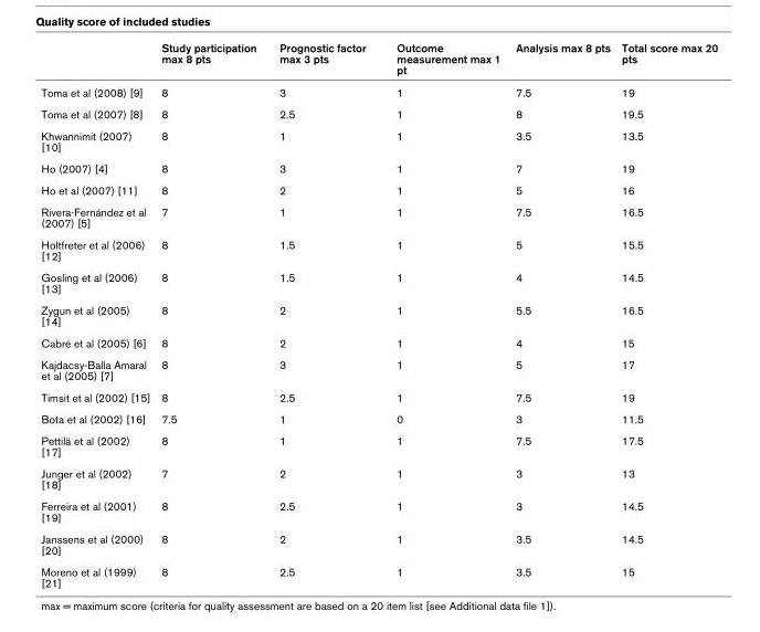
<table><thead><tr><td></td><td>Study participation max 8 pts</td><td>Prognostic factor max 3 pts</td><td>Outcome measurement max 1 pt</td><td>Analysis max 8 pts</td><td>Total score max 20 pts</td></tr></thead><tbody><tr><td>Toma et al (2008) [9]</td><td>8</td><td>3</td><td>1</td><td>7.5</td><td>19</td></tr><tr><td>Toma et al (2007) [8]</td><td>8</td><td>2.5</td><td>1</td><td>8</td><td>19.5</td></tr><tr><td>Khwannimit (2007) [10]</td><td>8</td><td>1</td><td>1</td><td>3.5</td><td>13.5</td></tr><tr><td>Ho (2007) [4]</td><td>8</td><td>3</td><td>1</td><td>7</td><td>19</td></tr><tr><td>Ho et al (2007) [11]</td><td>8</td><td>2</td><td>1</td><td>5</td><td>16</td></tr><tr><td>Rivera-Fernández et al (2007) [5]</td><td>7</td><td>1</td><td>1</td><td>7.5</td><td>16.5</td></tr><tr><td>Holtfreter et al (2006) [12]</td><td>8</td><td>1.5</td><td>1</td><td>5</td><td>15.5</td></tr><tr><td>Gosling et al (2006) [13]</td><td>8</td><td>1.5</td><td>1</td><td>4</td><td>14.5</td></tr><tr><td>Zygun et al (2005) [14]</td><td>8</td><td>2</td><td>1</td><td>5.5</td><td>16.5</td></tr><tr><td>Cabré et al (2005) [6]</td><td>8</td><td>2</td><td>1</td><td>4</td><td>15</td></tr><tr><td>Kajdacsy-Balla Amaral et al (2005) [7]</td><td>8</td><td>3</td><td>1</td><td>5</td><td>17</td></tr><tr><td>Timsit et al (2002) [15]</td><td>8</td><td>2.5</td><td>1</td><td>7.5</td><td>19</td></tr><tr><td>Bota et al (2002) [16]</td><td>7.5</td><td>1</td><td>0</td><td>3</td><td>11.5</td></tr><tr><td>Pettilä et al (2002) [17]</td><td>8</td><td>1</td><td>1</td><td>7.5</td><td>17.5</td></tr><tr><td>Junger et al (2002) [18]</td><td>7</td><td>2</td><td>1</td><td>3</td><td>13</td></tr><tr><td>Ferreira et al (2001) [19]</td><td>8</td><td>2.5</td><td>1</td><td>3</td><td>14.5</td></tr><tr><td>Janssens et al (2000) [20]</td><td>8</td><td>2</td><td>1</td><td>3.5</td><td>14.5</td></tr><tr><td>Moreno et al (1999) [21]</td><td>8</td><td>2.5</td><td>1</td><td>3.5</td><td>15</td></tr></tbody></table>